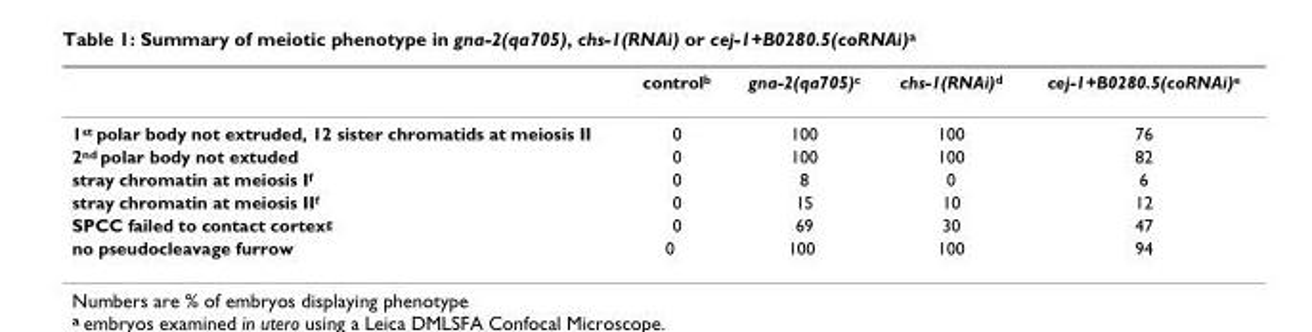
<table><thead><tr><td></td><td>control<sup>b</sup></td><td>gna-2(qa705)<sup>c</sup></td><td>chs-1(RNAi)<sup>d</sup></td><td>cej-1+B0280.5(coRNAi)<sup>e</sup></td></tr></thead><tbody><tr><td>1<sup>st</sup> polar body not extruded, 12 sister chromatids at meiosis II</td><td>0</td><td>100</td><td>100</td><td>76</td></tr><tr><td>2<sup>nd</sup> polar body not extuded</td><td>0</td><td>100</td><td>100</td><td>82</td></tr><tr><td>stray chromatin at meiosis I<sup>f</sup></td><td>0</td><td>8</td><td>0</td><td>6</td></tr><tr><td>stray chromatin at meiosis II<sup>f</sup></td><td>0</td><td>15</td><td>10</td><td>12</td></tr><tr><td>SPCC failed to contact cortex<sup>g</sup></td><td>0</td><td>69</td><td>30</td><td>47</td></tr><tr><td>no pseudocleavage furrow</td><td>0</td><td>100</td><td>100</td><td>94</td></tr></tbody></table>